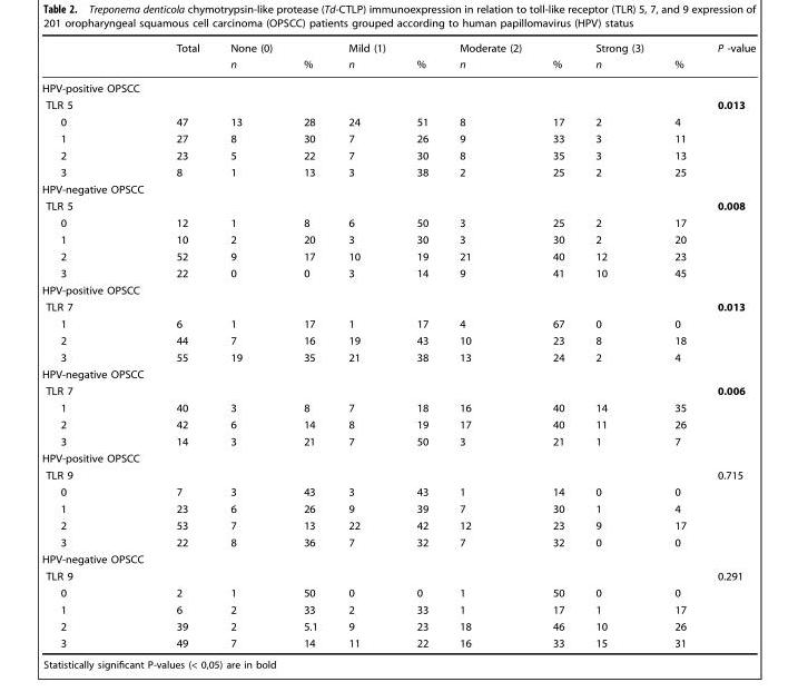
<table><thead><tr><td rowspan="2"></td><td rowspan="2">Total</td><td rowspan="2">None (0) n</td><td rowspan="2">%</td><td rowspan="2">Mild (1) n</td><td rowspan="2">%</td><td rowspan="2">Moderate (2) n</td><td rowspan="2">%</td><td rowspan="2">Strong (3) n</td><td rowspan="2">%</td><td rowspan="2">P -value</td></tr><tr></tr></thead><tbody><tr><td colspan="11">HPV-positive OPSCC</td></tr><tr><td>TLR 5</td><td></td><td></td><td></td><td></td><td></td><td></td><td></td><td></td><td></td><td>0.013</td></tr><tr><td>0</td><td>47</td><td>13</td><td>28</td><td>24</td><td>51</td><td>8</td><td>17</td><td>2</td><td>4</td><td></td></tr><tr><td>1</td><td>27</td><td>8</td><td>30</td><td>7</td><td>26</td><td>9</td><td>33</td><td>3</td><td>11</td><td></td></tr><tr><td>2</td><td>23</td><td>5</td><td>22</td><td>7</td><td>30</td><td>8</td><td>35</td><td>3</td><td>13</td><td></td></tr><tr><td>3</td><td>8</td><td>1</td><td>13</td><td>3</td><td>38</td><td>2</td><td>25</td><td>2</td><td>25</td><td></td></tr><tr><td colspan="11">HPV-negative OPSCC</td></tr><tr><td>TLR 5</td><td></td><td></td><td></td><td></td><td></td><td></td><td></td><td></td><td></td><td>0.008</td></tr><tr><td>0</td><td>12</td><td>1</td><td>8</td><td>6</td><td>50</td><td>3</td><td>25</td><td>2</td><td>17</td><td></td></tr><tr><td>1</td><td>10</td><td>2</td><td>20</td><td>3</td><td>30</td><td>3</td><td>30</td><td>2</td><td>20</td><td></td></tr><tr><td>2</td><td>52</td><td>9</td><td>17</td><td>10</td><td>19</td><td>21</td><td>40</td><td>12</td><td>23</td><td></td></tr><tr><td>3</td><td>22</td><td>0</td><td>0</td><td>3</td><td>14</td><td>9</td><td>41</td><td>10</td><td>45</td><td></td></tr><tr><td colspan="11">HPV-positive OPSCC</td></tr><tr><td>TLR 7</td><td></td><td></td><td></td><td></td><td></td><td></td><td></td><td></td><td></td><td>0.013</td></tr><tr><td>1</td><td>6</td><td>1</td><td>17</td><td>1</td><td>17</td><td>4</td><td>67</td><td>0</td><td>0</td><td></td></tr><tr><td>2</td><td>44</td><td>7</td><td>16</td><td>19</td><td>43</td><td>10</td><td>23</td><td>8</td><td>18</td><td></td></tr><tr><td>3</td><td>55</td><td>19</td><td>35</td><td>21</td><td>38</td><td>13</td><td>24</td><td>2</td><td>4</td><td></td></tr><tr><td colspan="11">HPV-negative OPSCC</td></tr><tr><td>TLR 7</td><td></td><td></td><td></td><td></td><td></td><td></td><td></td><td></td><td></td><td>0.006</td></tr><tr><td>1</td><td>40</td><td>3</td><td>8</td><td>7</td><td>18</td><td>16</td><td>40</td><td>14</td><td>35</td><td></td></tr><tr><td>2</td><td>42</td><td>6</td><td>14</td><td>8</td><td>19</td><td>17</td><td>40</td><td>11</td><td>26</td><td></td></tr><tr><td>3</td><td>14</td><td>3</td><td>21</td><td>7</td><td>50</td><td>3</td><td>21</td><td>1</td><td>7</td><td></td></tr><tr><td colspan="11">HPV-positive OPSCC</td></tr><tr><td>TLR 9</td><td></td><td></td><td></td><td></td><td></td><td></td><td></td><td></td><td></td><td>0.715</td></tr><tr><td>0</td><td>7</td><td>3</td><td>43</td><td>3</td><td>43</td><td>1</td><td>14</td><td>0</td><td>0</td><td></td></tr><tr><td>1</td><td>23</td><td>6</td><td>26</td><td>9</td><td>39</td><td>7</td><td>30</td><td>1</td><td>4</td><td></td></tr><tr><td>2</td><td>53</td><td>7</td><td>13</td><td>22</td><td>42</td><td>12</td><td>23</td><td>9</td><td>17</td><td></td></tr><tr><td>3</td><td>22</td><td>8</td><td>36</td><td>7</td><td>32</td><td>7</td><td>32</td><td>0</td><td>0</td><td></td></tr><tr><td colspan="11">HPV-negative OPSCC</td></tr><tr><td>TLR 9</td><td></td><td></td><td></td><td></td><td></td><td></td><td></td><td></td><td></td><td>0.291</td></tr><tr><td>0</td><td>2</td><td>1</td><td>50</td><td>0</td><td>0</td><td>1</td><td>50</td><td>0</td><td>0</td><td></td></tr><tr><td>1</td><td>6</td><td>2</td><td>33</td><td>2</td><td>33</td><td>1</td><td>17</td><td>1</td><td>17</td><td></td></tr><tr><td>2</td><td>39</td><td>2</td><td>5.1</td><td>9</td><td>23</td><td>18</td><td>46</td><td>10</td><td>26</td><td></td></tr><tr><td>3</td><td>49</td><td>7</td><td>14</td><td>11</td><td>22</td><td>16</td><td>33</td><td>15</td><td>31</td><td></td></tr></tbody></table>